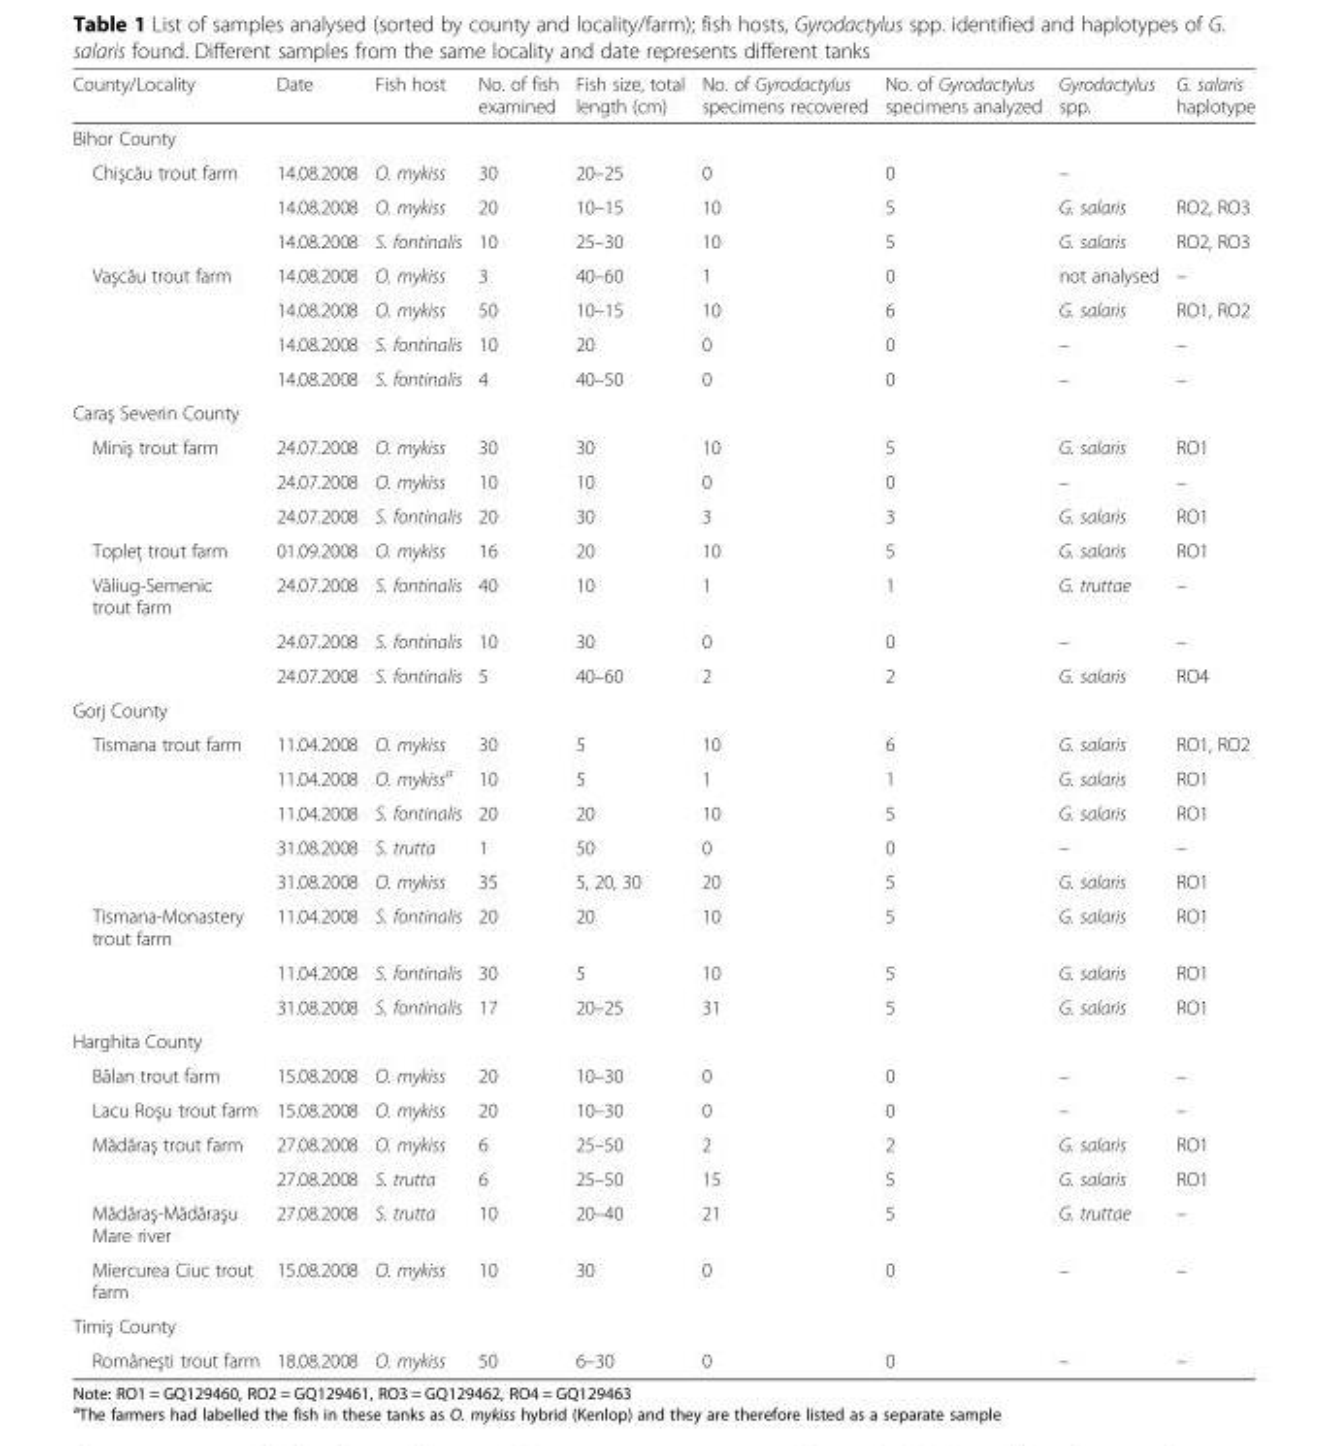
<table><thead><tr><td>County/Locality</td><td>Date</td><td>Fish host</td><td>No. of fish examined</td><td>Fish size, total length (cm)</td><td>No. of Gyrodactylus specimens recovered</td><td>No. of Gyrodactylus specimens analyzed</td><td>Gyrodactylus spp.</td><td>G. salaris haplotype</td></tr></thead><tbody><tr><td colspan="9">Bihor County</td></tr><tr><td rowspan="3">Chişcău trout farm</td><td>14.08.2008</td><td>O. mykiss</td><td>30</td><td>20–25</td><td>0</td><td>0</td><td>–</td><td></td></tr><tr><td>14.08.2008</td><td>O. mykiss</td><td>20</td><td>10–15</td><td>10</td><td>5</td><td>G. salaris</td><td>RO2, RO3</td></tr><tr><td>14.08.2008</td><td>S. fontinalis</td><td>10</td><td>25–30</td><td>10</td><td>5</td><td>G. salaris</td><td>RO2, RO3</td></tr><tr><td rowspan="4">Vaşcău trout farm</td><td>14.08.2008</td><td>O. mykiss</td><td>3</td><td>40–60</td><td>1</td><td>0</td><td>not analysed</td><td>–</td></tr><tr><td>14.08.2008</td><td>O. mykiss</td><td>50</td><td>10–15</td><td>10</td><td>6</td><td>G. salaris</td><td>RO1, RO2</td></tr><tr><td>14.08.2008</td><td>S. fontinalis</td><td>10</td><td>20</td><td>0</td><td>0</td><td>–</td><td>–</td></tr><tr><td>14.08.2008</td><td>S. fontinalis</td><td>4</td><td>40–50</td><td>0</td><td>0</td><td>–</td><td>–</td></tr><tr><td colspan="9">Caraş Severin County</td></tr><tr><td rowspan="3">Miniş trout farm</td><td>24.07.2008</td><td>O. mykiss</td><td>30</td><td>30</td><td>10</td><td>5</td><td>G. salaris</td><td>RO1</td></tr><tr><td>24.07.2008</td><td>O. mykiss</td><td>10</td><td>10</td><td>0</td><td>0</td><td>–</td><td>–</td></tr><tr><td>24.07.2008</td><td>S. fontinalis</td><td>20</td><td>30</td><td>3</td><td>3</td><td>G. salaris</td><td>RO1</td></tr><tr><td>Topleţ trout farm</td><td>01.09.2008</td><td>O. mykiss</td><td>16</td><td>20</td><td>10</td><td>5</td><td>G. salaris</td><td>RO1</td></tr><tr><td rowspan="3">Văliug-Semenic trout farm</td><td>24.07.2008</td><td>S. fontinalis</td><td>40</td><td>10</td><td>1</td><td>1</td><td>G. truttae</td><td>–</td></tr><tr><td>24.07.2008</td><td>S. fontinalis</td><td>10</td><td>30</td><td>0</td><td>0</td><td>–</td><td>–</td></tr><tr><td>24.07.2008</td><td>S. fontinalis</td><td>5</td><td>40–60</td><td>2</td><td>2</td><td>G. salaris</td><td>RO4</td></tr><tr><td colspan="9">Gorj County</td></tr><tr><td rowspan="5">Tismana trout farm</td><td>11.04.2008</td><td>O. mykiss</td><td>30</td><td>5</td><td>10</td><td>6</td><td>G. salaris</td><td>RO1, RO2</td></tr><tr><td>11.04.2008</td><td>O. mykiss<sup>a</sup></td><td>10</td><td>5</td><td>1</td><td>1</td><td>G. salaris</td><td>RO1</td></tr><tr><td>11.04.2008</td><td>S. fontinalis</td><td>20</td><td>20</td><td>10</td><td>5</td><td>G. salaris</td><td>RO1</td></tr><tr><td>31.08.2008</td><td>S. trutta</td><td>1</td><td>50</td><td>0</td><td>0</td><td>–</td><td>–</td></tr><tr><td>31.08.2008</td><td>O. mykiss</td><td>35</td><td>5, 20, 30</td><td>20</td><td>5</td><td>G. salaris</td><td>RO1</td></tr><tr><td rowspan="3">Tismana-Monastery trout farm</td><td>11.04.2008</td><td>S. fontinalis</td><td>20</td><td>20</td><td>10</td><td>5</td><td>G. salaris</td><td>RO1</td></tr><tr><td>11.04.2008</td><td>S. fontinalis</td><td>30</td><td>5</td><td>10</td><td>5</td><td>G. salaris</td><td>RO1</td></tr><tr><td>31.08.2008</td><td>S. fontinalis</td><td>17</td><td>20–25</td><td>31</td><td>5</td><td>G. salaris</td><td>RO1</td></tr><tr><td colspan="9">Harghita County</td></tr><tr><td>Bălan trout farm</td><td>15.08.2008</td><td>O. mykiss</td><td>20</td><td>10–30</td><td>0</td><td>0</td><td>–</td><td>–</td></tr><tr><td>Lacu Roşu trout farm</td><td>15.08.2008</td><td>O. mykiss</td><td>20</td><td>10–30</td><td>0</td><td>0</td><td>–</td><td>–</td></tr><tr><td rowspan="2">Mădăraş trout farm</td><td>27.08.2008</td><td>O. mykiss</td><td>6</td><td>25–50</td><td>2</td><td>2</td><td>G. salaris</td><td>RO1</td></tr><tr><td>27.08.2008</td><td>S. trutta</td><td>6</td><td>25–50</td><td>15</td><td>5</td><td>G. salaris</td><td>RO1</td></tr><tr><td>Mădăraş-Mădăraşu Mare river</td><td>27.08.2008</td><td>S. trutta</td><td>10</td><td>20–40</td><td>21</td><td>5</td><td>G. truttae</td><td>–</td></tr><tr><td>Miercurea Ciuc trout farm</td><td>15.08.2008</td><td>O. mykiss</td><td>10</td><td>30</td><td>0</td><td>0</td><td>–</td><td>–</td></tr><tr><td colspan="9">Timiş County</td></tr><tr><td>Româneşti trout farm</td><td>18.08.2008</td><td>O. mykiss</td><td>50</td><td>6–30</td><td>0</td><td>0</td><td>–</td><td>–</td></tr></tbody></table>